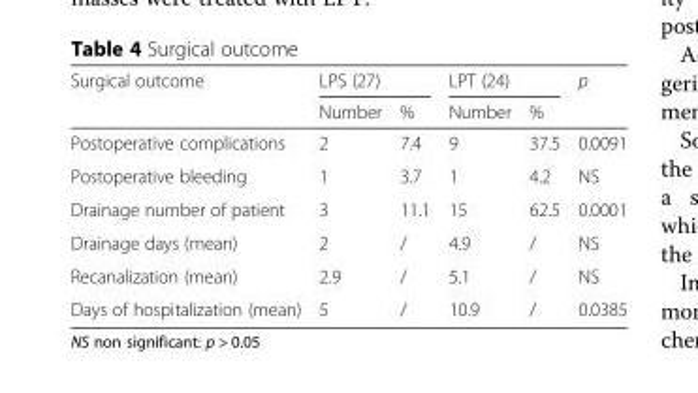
<table><thead><tr><td rowspan="2">Surgical outcome</td><td colspan="2">LPS (27)</td><td colspan="2">LPT (24)</td><td rowspan="2">p</td></tr><tr><td>Number</td><td>%</td><td>Number</td><td>%</td></tr></thead><tbody><tr><td>Postoperative complications</td><td>2</td><td>7.4</td><td>9</td><td>37.5</td><td>0.0091</td></tr><tr><td>Postoperative bleeding</td><td>1</td><td>3.7</td><td>1</td><td>4.2</td><td>NS</td></tr><tr><td>Drainage number of patient</td><td>3</td><td>11.1</td><td>15</td><td>62.5</td><td>0.0001</td></tr><tr><td>Drainage days (mean)</td><td>2</td><td>/</td><td>4.9</td><td>/</td><td>NS</td></tr><tr><td>Recanalization (mean)</td><td>2.9</td><td>/</td><td>5.1</td><td>/</td><td>NS</td></tr><tr><td>Days of hospitalization (mean)</td><td>5</td><td>/</td><td>10.9</td><td>/</td><td>0.0385</td></tr></tbody></table>